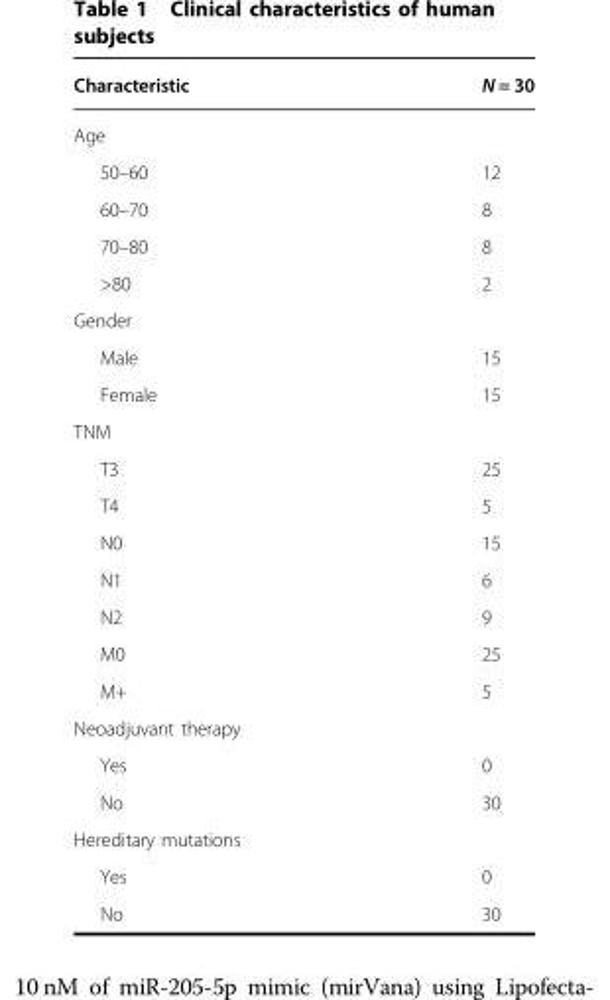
<table><thead><tr><td>Characteristic</td><td>N = 30</td></tr></thead><tbody><tr><td colspan="2">Age</td></tr><tr><td>50–60</td><td>12</td></tr><tr><td>60–70</td><td>8</td></tr><tr><td>70–80</td><td>8</td></tr><tr><td>&gt;80</td><td>2</td></tr><tr><td colspan="2">Gender</td></tr><tr><td>Male</td><td>15</td></tr><tr><td>Female</td><td>15</td></tr><tr><td colspan="2">TNM</td></tr><tr><td>T3</td><td>25</td></tr><tr><td>T4</td><td>5</td></tr><tr><td>N0</td><td>15</td></tr><tr><td>N1</td><td>6</td></tr><tr><td>N2</td><td>9</td></tr><tr><td>M0</td><td>25</td></tr><tr><td>M+</td><td>5</td></tr><tr><td colspan="2">Neoadjuvant therapy</td></tr><tr><td>Yes</td><td>0</td></tr><tr><td>No</td><td>30</td></tr><tr><td colspan="2">Hereditary mutations</td></tr><tr><td>Yes</td><td>0</td></tr><tr><td>No</td><td>30</td></tr></tbody></table>